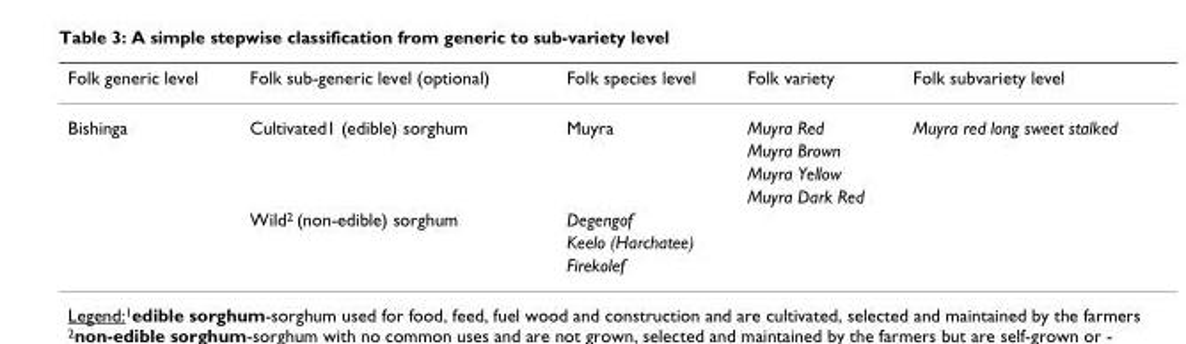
<table><thead><tr><td>Folk generic level</td><td>Folk sub-generic level (optional)</td><td>Folk species level</td><td>Folk variety</td><td>Folk subvariety level</td></tr></thead><tbody><tr><td rowspan="7">Bishinga</td><td>Cultivated1 (edible) sorghum</td><td>Muyra</td><td>Muyra Red</td><td>Muyra red long sweet stalked</td></tr><tr><td></td><td></td><td>Muyra Brown</td><td></td></tr><tr><td></td><td></td><td>Muyra Yellow</td><td></td></tr><tr><td></td><td></td><td>Muyra Dark Red</td><td></td></tr><tr><td>Wild<sup>2</sup> (non-edible) sorghum</td><td>Degengof</td><td></td><td></td></tr><tr><td></td><td>Keelo (Harchatee)</td><td></td><td></td></tr><tr><td></td><td>Firekolef</td><td></td><td></td></tr></tbody></table>